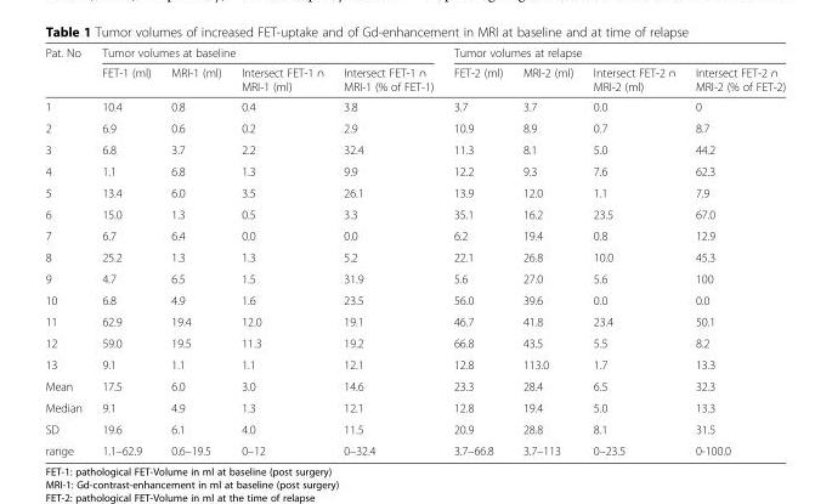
<table><thead><tr><td rowspan="2">Pat. No</td><td colspan="4">Tumor volumes at baseline</td><td colspan="4">Tumor volumes at relapse</td></tr><tr><td>FET-1 (ml)</td><td>MRI-1 (ml)</td><td>Intersect FET-1 ∩ MRI-1 (ml)</td><td>Intersect FET-1 ∩ MRI-1 (% of FET-1)</td><td>FET-2 (ml)</td><td>MRI-2 (ml)</td><td>Intersect FET-2 ∩ MRI-2 (ml)</td><td>Intersect FET-2 ∩ MRI-2 (% of FET-2)</td></tr></thead><tbody><tr><td>1</td><td>10.4</td><td>0.8</td><td>0.4</td><td>3.8</td><td>3.7</td><td>3.7</td><td>0.0</td><td>0</td></tr><tr><td>2</td><td>6.9</td><td>0.6</td><td>0.2</td><td>2.9</td><td>10.9</td><td>8.9</td><td>0.7</td><td>8.7</td></tr><tr><td>3</td><td>6.8</td><td>3.7</td><td>2.2</td><td>32.4</td><td>11.3</td><td>8.1</td><td>5.0</td><td>44.2</td></tr><tr><td>4</td><td>1.1</td><td>6.8</td><td>1.3</td><td>9.9</td><td>12.2</td><td>9.3</td><td>7.6</td><td>62.3</td></tr><tr><td>5</td><td>13.4</td><td>6.0</td><td>3.5</td><td>26.1</td><td>13.9</td><td>12.0</td><td>1.1</td><td>7.9</td></tr><tr><td>6</td><td>15.0</td><td>1.3</td><td>0.5</td><td>3.3</td><td>35.1</td><td>16.2</td><td>23.5</td><td>67.0</td></tr><tr><td>7</td><td>6.7</td><td>6.4</td><td>0.0</td><td>0.0</td><td>6.2</td><td>19.4</td><td>0.8</td><td>12.9</td></tr><tr><td>8</td><td>25.2</td><td>1.3</td><td>1.3</td><td>5.2</td><td>22.1</td><td>26.8</td><td>10.0</td><td>45.3</td></tr><tr><td>9</td><td>4.7</td><td>6.5</td><td>1.5</td><td>31.9</td><td>5.6</td><td>27.0</td><td>5.6</td><td>100</td></tr><tr><td>10</td><td>6.8</td><td>4.9</td><td>1.6</td><td>23.5</td><td>56.0</td><td>39.6</td><td>0.0</td><td>0.0</td></tr><tr><td>11</td><td>62.9</td><td>19.4</td><td>12.0</td><td>19.1</td><td>46.7</td><td>41.8</td><td>23.4</td><td>50.1</td></tr><tr><td>12</td><td>59.0</td><td>19.5</td><td>11.3</td><td>19.2</td><td>66.8</td><td>43.5</td><td>5.5</td><td>8.2</td></tr><tr><td>13</td><td>9.1</td><td>1.1</td><td>1.1</td><td>12.1</td><td>12.8</td><td>113.0</td><td>1.7</td><td>13.3</td></tr><tr><td>Mean</td><td>17.5</td><td>6.0</td><td>3.0</td><td>14.6</td><td>23.3</td><td>28.4</td><td>6.5</td><td>32.3</td></tr><tr><td>Median</td><td>9.1</td><td>4.9</td><td>1.3</td><td>12.1</td><td>12.8</td><td>19.4</td><td>5.0</td><td>13.3</td></tr><tr><td>SD</td><td>19.6</td><td>6.1</td><td>4.0</td><td>11.5</td><td>20.9</td><td>28.8</td><td>8.1</td><td>31.5</td></tr><tr><td>range</td><td>1.1–62.9</td><td>0.6–19.5</td><td>0–12</td><td>0–32.4</td><td>3.7–66.8</td><td>3.7–113</td><td>0–23.5</td><td>0-100.0</td></tr></tbody></table>